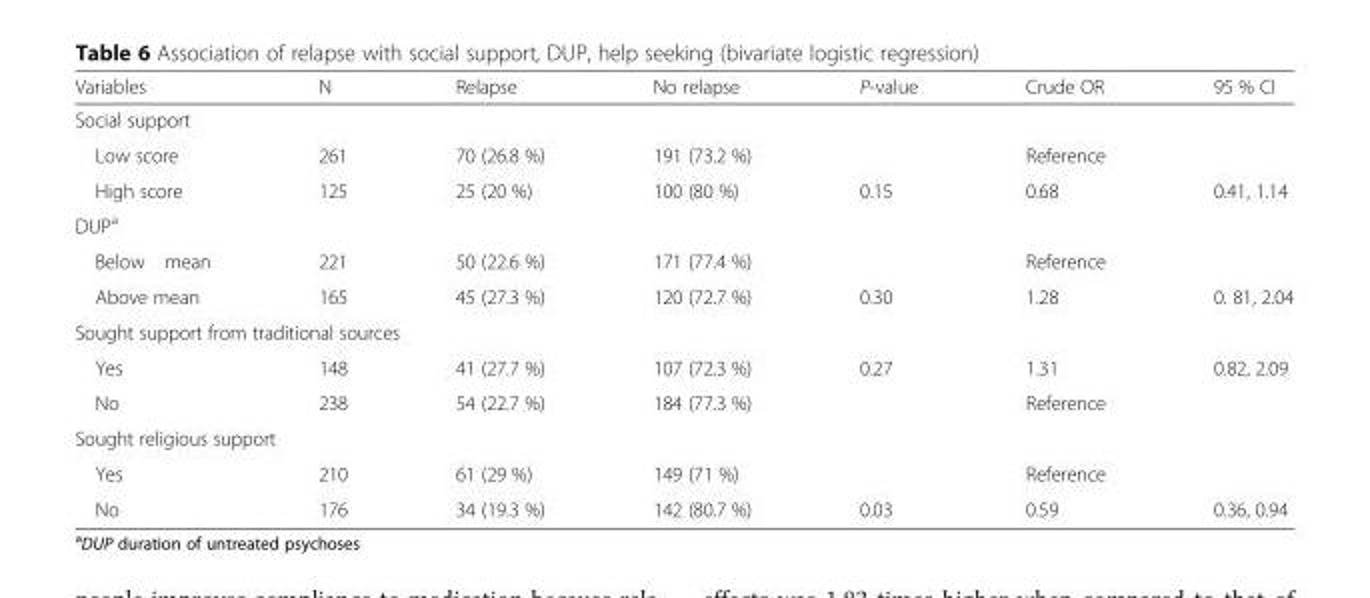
<table><thead><tr><td>Variables</td><td>N</td><td>Relapse</td><td>No relapse</td><td>P-value</td><td>Crude OR</td><td>95 % CI</td></tr></thead><tbody><tr><td colspan="7">Social support</td></tr><tr><td>Low score</td><td>261</td><td>70 (26.8 %)</td><td>191 (73.2 %)</td><td></td><td>Reference</td><td></td></tr><tr><td>High score</td><td>125</td><td>25 (20 %)</td><td>100 (80 %)</td><td>0.15</td><td>0.68</td><td>0.41, 1.14</td></tr><tr><td colspan="7">DUP<sup>a</sup></td></tr><tr><td>Below mean</td><td>221</td><td>50 (22.6 %)</td><td>171 (77.4 %)</td><td></td><td>Reference</td><td></td></tr><tr><td>Above mean</td><td>165</td><td>45 (27.3 %)</td><td>120 (72.7 %)</td><td>0.30</td><td>1.28</td><td>0. 81, 2.04</td></tr><tr><td colspan="7">Sought support from traditional sources</td></tr><tr><td>Yes</td><td>148</td><td>41 (27.7 %)</td><td>107 (72.3 %)</td><td>0.27</td><td>1.31</td><td>0.82, 2.09</td></tr><tr><td>No</td><td>238</td><td>54 (22.7 %)</td><td>184 (77.3 %)</td><td></td><td>Reference</td><td></td></tr><tr><td colspan="7">Sought religious support</td></tr><tr><td>Yes</td><td>210</td><td>61 (29 %)</td><td>149 (71 %)</td><td></td><td>Reference</td><td></td></tr><tr><td>No</td><td>176</td><td>34 (19.3 %)</td><td>142 (80.7 %)</td><td>0.03</td><td>0.59</td><td>0.36, 0.94</td></tr></tbody></table>